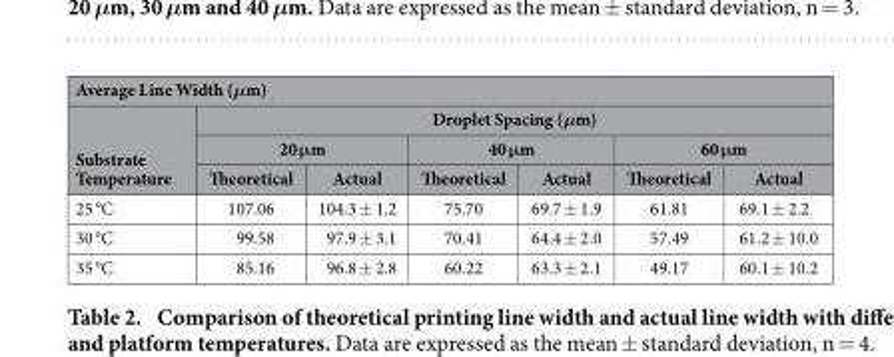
<table><thead><tr><td colspan="7">Average Line Width (μm)</td></tr><tr><td rowspan="3">Substrate Temperature</td><td colspan="6">Droplet Spacing (μm)</td></tr><tr><td colspan="2">20 μm</td><td colspan="2">40 μm</td><td colspan="2">60 μm</td></tr><tr><td>Theoretical</td><td>Actual</td><td>Theoretical</td><td>Actual</td><td>Theoretical</td><td>Actual</td></tr></thead><tbody><tr><td>25 °C</td><td>107.06</td><td>104.3 ± 1.2</td><td>75.70</td><td>69.7 ± 1.9</td><td>61.81</td><td>69.1 ± 2.2</td></tr><tr><td>30 °C</td><td>99.58</td><td>97.9 ± 3.1</td><td>70.41</td><td>64.4 ± 2.0</td><td>57.49</td><td>61.2 ± 10.0</td></tr><tr><td>35 °C</td><td>85.16</td><td>96.8 ± 2.8</td><td>60.22</td><td>63.3 ± 2.1</td><td>49.17</td><td>60.1 ± 10.2</td></tr></tbody></table>